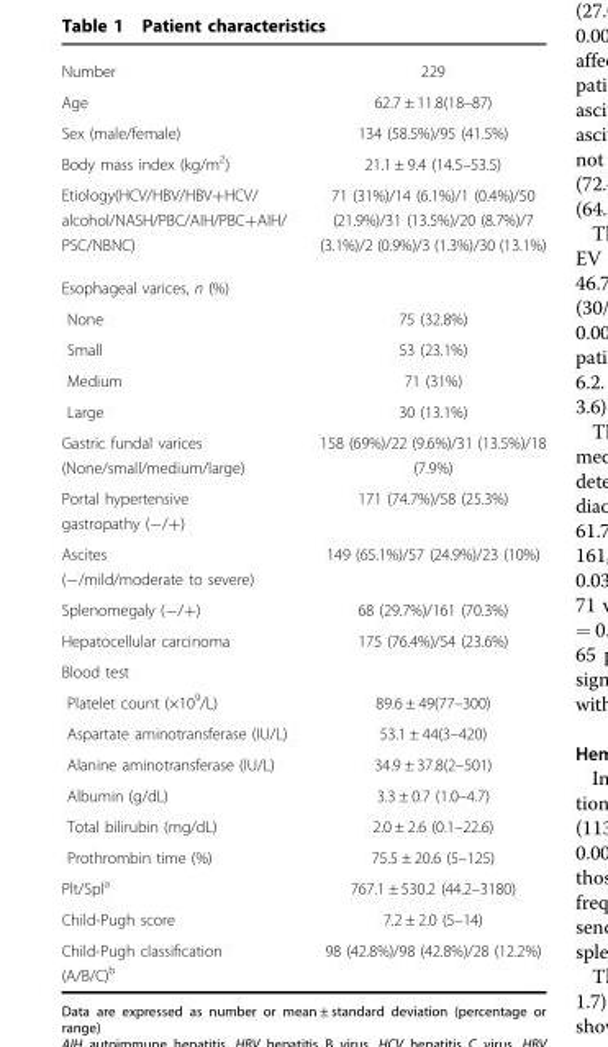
<table><tbody><tr><td>Number</td><td>229</td></tr><tr><td>Age</td><td>62.7 ± 11.8(18–87)</td></tr><tr><td>Sex (male/female)</td><td>134 (58.5%)/95 (41.5%)</td></tr><tr><td>Body mass index (kg/m<sup>2</sup>)</td><td>21.1 ± 9.4 (14.5–53.5)</td></tr><tr><td>Etiology(HCV/HBV/HBV+HCV/ alcohol/NASH/PBC/AIH/PBC+AIH/ PSC/NBNC)</td><td>71 (31%)/14 (6.1%)/1 (0.4%)/50 (21.9%)/31 (13.5%)/20 (8.7%)/7 (3.1%)/2 (0.9%)/3 (1.3%)/30 (13.1%)</td></tr><tr><td colspan="2">Esophageal varices, n (%)</td></tr><tr><td>None</td><td>75 (32.8%)</td></tr><tr><td>Small</td><td>53 (23.1%)</td></tr><tr><td>Medium</td><td>71 (31%)</td></tr><tr><td>Large</td><td>30 (13.1%)</td></tr><tr><td>Gastric fundal varices (None/small/medium/large)</td><td>158 (69%)/22 (9.6%)/31 (13.5%)/18 (7.9%)</td></tr><tr><td>Portal hypertensive gastropathy (−/+)</td><td>171 (74.7%)/58 (25.3%)</td></tr><tr><td>Ascites (−/mild/moderate to severe)</td><td>149 (65.1%)/57 (24.9%)/23 (10%)</td></tr><tr><td>Splenomegaly (−/+)</td><td>68 (29.7%)/161 (70.3%)</td></tr><tr><td>Hepatocellular carcinoma</td><td>175 (76.4%)/54 (23.6%)</td></tr><tr><td colspan="2">Blood test</td></tr><tr><td>Platelet count (×10<sup>9</sup>/L)</td><td>89.6 ± 49(77–300)</td></tr><tr><td>Aspartate aminotransferase (IU/L)</td><td>53.1 ± 44(3–420)</td></tr><tr><td>Alanine aminotransferase (IU/L)</td><td>34.9 ± 37.8(2–501)</td></tr><tr><td>Albumin (g/dL)</td><td>3.3 ± 0.7 (1.0–4.7)</td></tr><tr><td>Total bilirubin (mg/dL)</td><td>2.0 ± 2.6 (0.1–22.6)</td></tr><tr><td>Prothrombin time (%)</td><td>75.5 ± 20.6 (5–125)</td></tr><tr><td>Plt/Spl<sup>a</sup></td><td>767.1 ± 530.2 (44.2–3180)</td></tr><tr><td>Child-Pugh score</td><td>7.2 ± 2.0 (5–14)</td></tr><tr><td>Child-Pugh classification (A/B/C)<sup>b</sup></td><td>98 (42.8%)/98 (42.8%)/28 (12.2%)</td></tr></tbody></table>